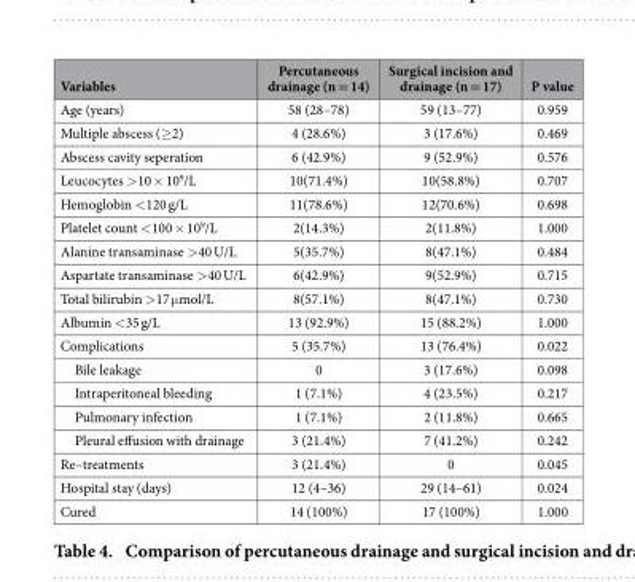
<table><thead><tr><td>Variables</td><td>Percutaneous drainage (n = 14)</td><td>Surgical incision and drainage (n = 17)</td><td>P value</td></tr></thead><tbody><tr><td>Age (years)</td><td>58 (28–78)</td><td>59 (13–77)</td><td>0.959</td></tr><tr><td>Multiple abscess (≥ 2)</td><td>4 (28.6%)</td><td>3 (17.6%)</td><td>0.469</td></tr><tr><td>Abscess cavity seperation</td><td>6 (42.9%)</td><td>9 (52.9%)</td><td>0.576</td></tr><tr><td>Leucocytes &gt; 10 × 10<sup>9</sup>/L</td><td>10(71.4%)</td><td>10(58.8%)</td><td>0.707</td></tr><tr><td>Hemoglobin &lt; 120 g/L</td><td>11(78.6%)</td><td>12(70.6%)</td><td>0.698</td></tr><tr><td>Platelet count &lt; 100 × 10<sup>9</sup>/L</td><td>2(14.3%)</td><td>2(11.8%)</td><td>1.000</td></tr><tr><td>Alanine transaminase &gt; 40 U/L</td><td>5(35.7%)</td><td>8(47.1%)</td><td>0.484</td></tr><tr><td>Aspartate transaminase &gt; 40 U/L</td><td>6(42.9%)</td><td>9(52.9%)</td><td>0.715</td></tr><tr><td>Total bilirubin &gt; 17 μ mol/L</td><td>8(57.1%)</td><td>8(47.1%)</td><td>0.730</td></tr><tr><td>Albumin &lt; 35 g/L</td><td>13 (92.9%)</td><td>15 (88.2%)</td><td>1.000</td></tr><tr><td>Complications</td><td>5 (35.7%)</td><td>13 (76.4%)</td><td>0.022</td></tr><tr><td>Bile leakage</td><td>0</td><td>3 (17.6%)</td><td>0.098</td></tr><tr><td>Intraperitoneal bleeding</td><td>1 (7.1%)</td><td>4 (23.5%)</td><td>0.217</td></tr><tr><td>Pulmonary infection</td><td>1 (7.1%)</td><td>2 (11.8%)</td><td>0.665</td></tr><tr><td>Pleural effusion with drainage</td><td>3 (21.4%)</td><td>7 (41.2%)</td><td>0.242</td></tr><tr><td>Re–treatments</td><td>3 (21.4%)</td><td>0</td><td>0.045</td></tr><tr><td>Hospital stay (days)</td><td>12 (4–36)</td><td>29 (14–61)</td><td>0.024</td></tr><tr><td>Cured</td><td>14 (100%)</td><td>17 (100%)</td><td>1.000</td></tr></tbody></table>